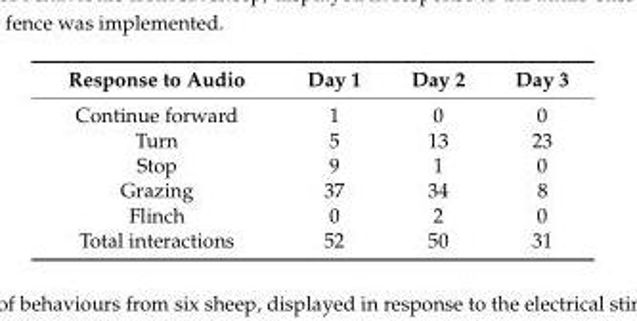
<table><thead><tr><td>Response to Audio</td><td>Day 1</td><td>Day 2</td><td>Day 3</td></tr></thead><tbody><tr><td>Continue forward</td><td>1</td><td>0</td><td>0</td></tr><tr><td>Turn</td><td>5</td><td>13</td><td>23</td></tr><tr><td>Stop</td><td>9</td><td>1</td><td>0</td></tr><tr><td>Grazing</td><td>37</td><td>34</td><td>8</td></tr><tr><td>Flinch</td><td>0</td><td>2</td><td>0</td></tr><tr><td>Total interactions</td><td>52</td><td>50</td><td>31</td></tr></tbody></table>